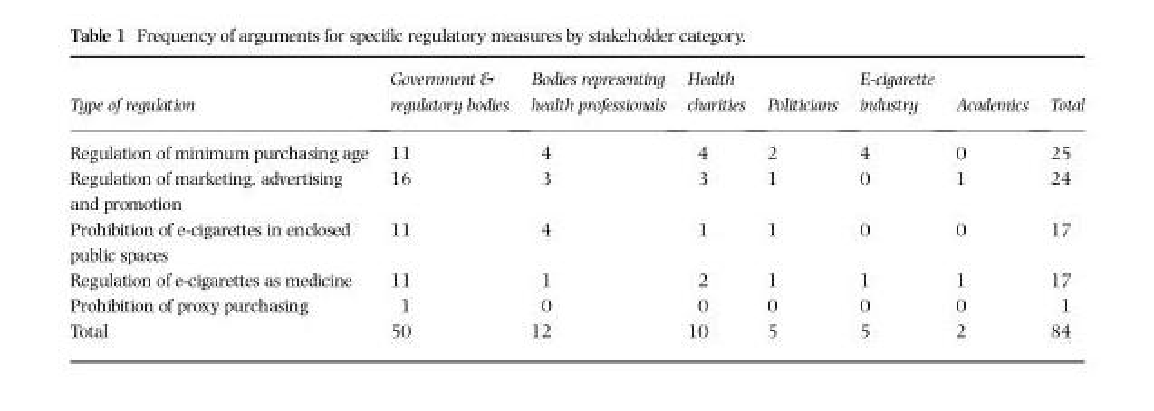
<table><thead><tr><td>Type of regulation</td><td>Government &amp; regulatory bodies</td><td>Bodies representing health professionals</td><td>Health charities</td><td>Politicians</td><td>E-cigarette industry</td><td>Academics</td><td>Total</td></tr></thead><tbody><tr><td>Regulation of minimum purchasing age</td><td>11</td><td>4</td><td>4</td><td>2</td><td>4</td><td>0</td><td>25</td></tr><tr><td>Regulation of marketing, advertising and promotion</td><td>16</td><td>3</td><td>3</td><td>1</td><td>0</td><td>1</td><td>24</td></tr><tr><td>Prohibition of e-cigarettes in enclosed public spaces</td><td>11</td><td>4</td><td>1</td><td>1</td><td>0</td><td>0</td><td>17</td></tr><tr><td>Regulation of e-cigarettes as medicine</td><td>11</td><td>1</td><td>2</td><td>1</td><td>1</td><td>1</td><td>17</td></tr><tr><td>Prohibition of proxy purchasing</td><td>1</td><td>0</td><td>0</td><td>0</td><td>0</td><td>0</td><td>1</td></tr><tr><td>Total</td><td>50</td><td>12</td><td>10</td><td>5</td><td>5</td><td>2</td><td>84</td></tr></tbody></table>